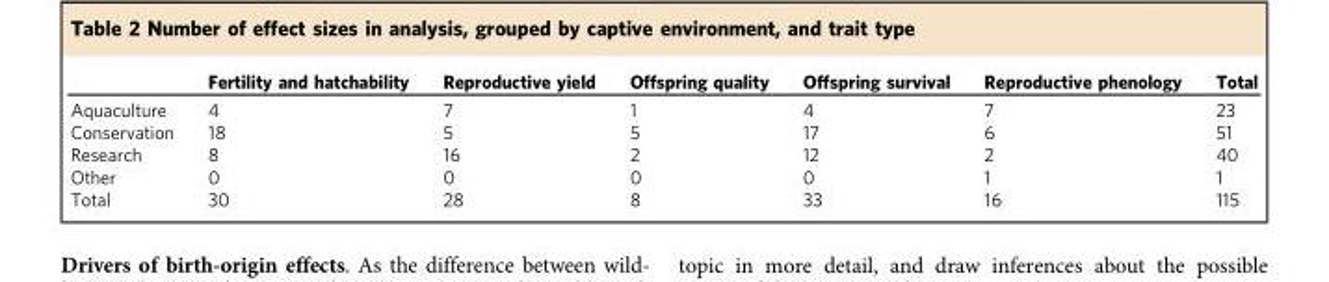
<table><thead><tr><td></td><td>Fertility and hatchability</td><td>Reproductive yield</td><td>Offspring quality</td><td>Offspring survival</td><td>Reproductive phenology</td><td>Total</td></tr></thead><tbody><tr><td>Aquaculture</td><td>4</td><td>7</td><td>1</td><td>4</td><td>7</td><td>23</td></tr><tr><td>Conservation</td><td>18</td><td>5</td><td>5</td><td>17</td><td>6</td><td>51</td></tr><tr><td>Research</td><td>8</td><td>16</td><td>2</td><td>12</td><td>2</td><td>40</td></tr><tr><td>Other</td><td>0</td><td>0</td><td>0</td><td>0</td><td>1</td><td>1</td></tr><tr><td>Total</td><td>30</td><td>28</td><td>8</td><td>33</td><td>16</td><td>115</td></tr></tbody></table>